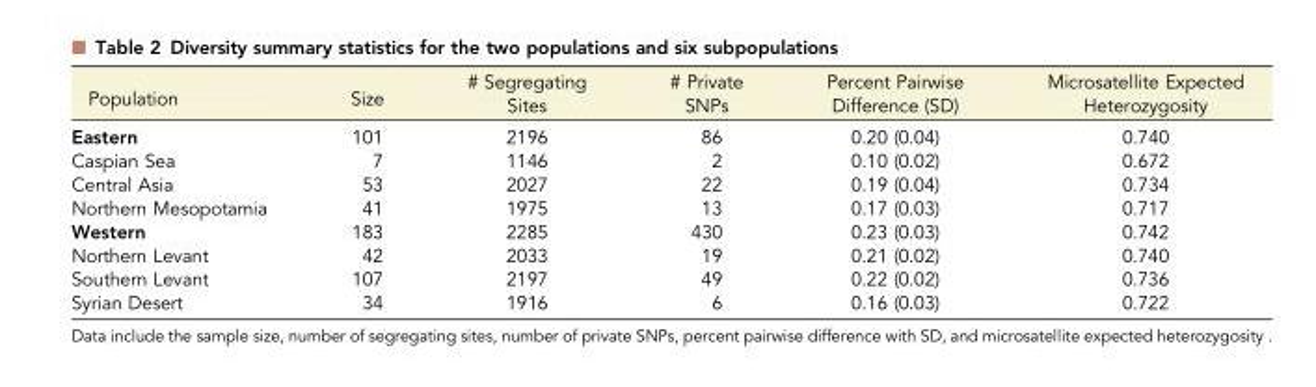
<table><thead><tr><td>Population</td><td>Size</td><td># Segregating Sites</td><td># Private SNPs</td><td>Percent Pairwise Difference (SD)</td><td>Microsatellite Expected Heterozygosity</td></tr></thead><tbody><tr><td>Eastern</td><td>101</td><td>2196</td><td>86</td><td>0.20 (0.04)</td><td>0.740</td></tr><tr><td>Caspian Sea</td><td>7</td><td>1146</td><td>2</td><td>0.10 (0.02)</td><td>0.672</td></tr><tr><td>Central Asia</td><td>53</td><td>2027</td><td>22</td><td>0.19 (0.04)</td><td>0.734</td></tr><tr><td>Northern Mesopotamia</td><td>41</td><td>1975</td><td>13</td><td>0.17 (0.03)</td><td>0.717</td></tr><tr><td>Western</td><td>183</td><td>2285</td><td>430</td><td>0.23 (0.03)</td><td>0.742</td></tr><tr><td>Northern Levant</td><td>42</td><td>2033</td><td>19</td><td>0.21 (0.02)</td><td>0.740</td></tr><tr><td>Southern Levant</td><td>107</td><td>2197</td><td>49</td><td>0.22 (0.02)</td><td>0.736</td></tr><tr><td>Syrian Desert</td><td>34</td><td>1916</td><td>6</td><td>0.16 (0.03)</td><td>0.722</td></tr></tbody></table>